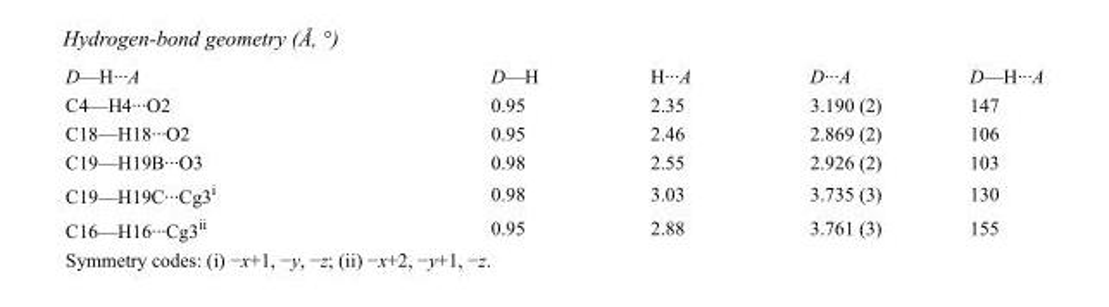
<table><tbody><tr><td>D—H···A</td><td>D—H</td><td>H···A</td><td>D···A</td><td>D—H···A</td></tr><tr><td>C4—H4···O2</td><td>0.95</td><td>2.35</td><td>3.190 (2)</td><td>147</td></tr><tr><td>C18—H18···O2</td><td>0.95</td><td>2.46</td><td>2.869 (2)</td><td>106</td></tr><tr><td>C19—H19B···O3</td><td>0.98</td><td>2.55</td><td>2.926 (2)</td><td>103</td></tr><tr><td>C19—H19C···Cg3<sup>i</sup></td><td>0.98</td><td>3.03</td><td>3.735 (3)</td><td>130</td></tr><tr><td>C16—H16···Cg3<sup>ii</sup></td><td>0.95</td><td>2.88</td><td>3.761 (3)</td><td>155</td></tr></tbody></table>